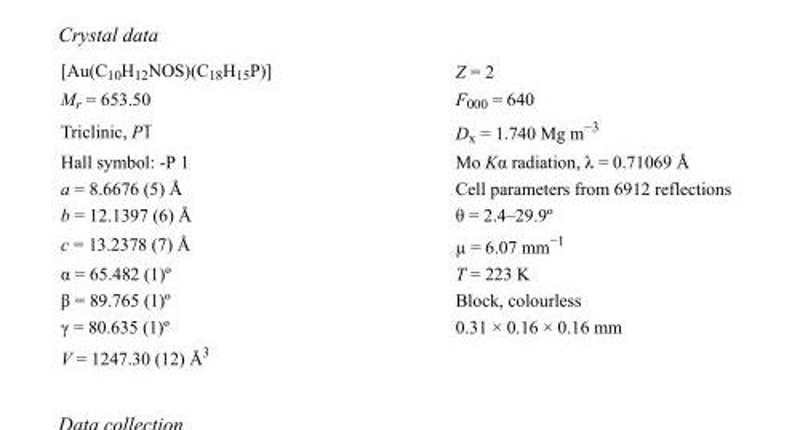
<table><tbody><tr><td>[Au(C<sub>10</sub>H<sub>12</sub>NOS)(C<sub>18</sub>H<sub>15</sub>P)]</td><td>Z = 2</td></tr><tr><td>M<sub>r</sub> = 653.50</td><td>F000 = 640</td></tr><tr><td>Triclinic, P1</td><td>D<sub>x</sub> = 1.740 Mg m<sup>−3</sup></td></tr><tr><td>Hall symbol: -P 1</td><td>Mo Kα radiation, λ = 0.71069 Å</td></tr><tr><td>a = 8.6676 (5) Å</td><td>Cell parameters from 6912 reflections</td></tr><tr><td>b = 12.1397 (6) Å</td><td>θ = 2.4–29.9º</td></tr><tr><td>c = 13.2378 (7) Å</td><td>µ = 6.07 mm<sup>−1</sup></td></tr><tr><td>α = 65.482 (1)º</td><td>T = 223 K</td></tr><tr><td>β = 89.765 (1)º</td><td>Block, colourless</td></tr><tr><td>γ = 80.635 (1)º</td><td>0.31 × 0.16 × 0.16 mm</td></tr><tr><td>V = 1247.30 (12) Å<sup>3</sup></td><td></td></tr></tbody></table>